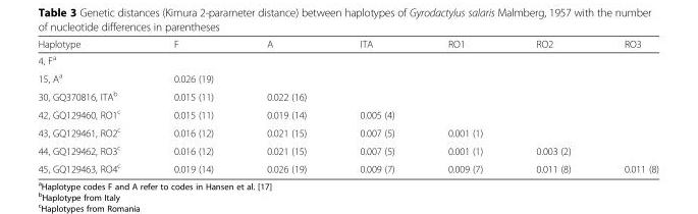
<table><thead><tr><td>Haplotype</td><td>F</td><td>A</td><td>ITA</td><td>RO1</td><td>RO2</td><td>RO3</td></tr></thead><tbody><tr><td colspan="7">4, F<sup>a</sup></td></tr><tr><td>15, A<sup>a</sup></td><td>0.026 (19)</td><td></td><td></td><td></td><td></td><td></td></tr><tr><td>30, GQ370816, ITA<sup>b</sup></td><td>0.015 (11)</td><td>0.022 (16)</td><td></td><td></td><td></td><td></td></tr><tr><td>42, GQ129460, RO1<sup>c</sup></td><td>0.015 (11)</td><td>0.019 (14)</td><td>0.005 (4)</td><td></td><td></td><td></td></tr><tr><td>43, GQ129461, RO2<sup>c</sup></td><td>0.016 (12)</td><td>0.021 (15)</td><td>0.007 (5)</td><td>0.001 (1)</td><td></td><td></td></tr><tr><td>44, GQ129462, RO3<sup>c</sup></td><td>0.016 (12)</td><td>0.021 (15)</td><td>0.007 (5)</td><td>0.001 (1)</td><td>0.003 (2)</td><td></td></tr><tr><td>45, GQ129463, RO4<sup>c</sup></td><td>0.019 (14)</td><td>0.026 (19)</td><td>0.009 (7)</td><td>0.009 (7)</td><td>0.011 (8)</td><td>0.011 (8)</td></tr></tbody></table>